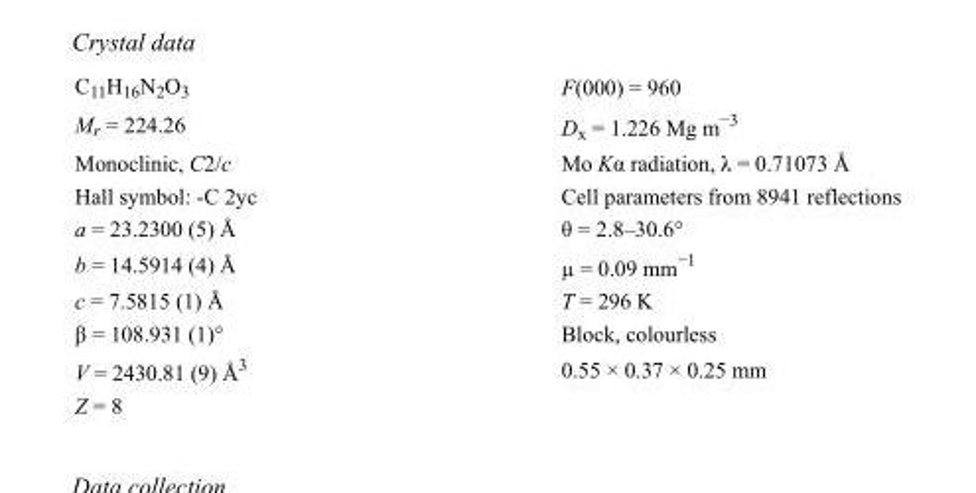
<table><tbody><tr><td>C<sub>11</sub>H<sub>16</sub>N<sub>2</sub>O<sub>3</sub></td><td>F(000) = 960</td></tr><tr><td>M<sub>r</sub> = 224.26</td><td>D<sub>x</sub> = 1.226 Mg m<sup>−3</sup></td></tr><tr><td>Monoclinic, C2/c</td><td>Mo Kα radiation, λ = 0.71073 Å</td></tr><tr><td>Hall symbol: -C 2yc</td><td>Cell parameters from 8941 reflections</td></tr><tr><td>a = 23.2300 (5) Å</td><td>θ = 2.8–30.6°</td></tr><tr><td>b = 14.5914 (4) Å</td><td>µ = 0.09 mm<sup>−1</sup></td></tr><tr><td>c = 7.5815 (1) Å</td><td>T = 296 K</td></tr><tr><td>β = 108.931 (1)°</td><td>Block, colourless</td></tr><tr><td>V = 2430.81 (9) Å<sup>3</sup></td><td>0.55 × 0.37 × 0.25 mm</td></tr><tr><td>Z = 8</td><td></td></tr></tbody></table>